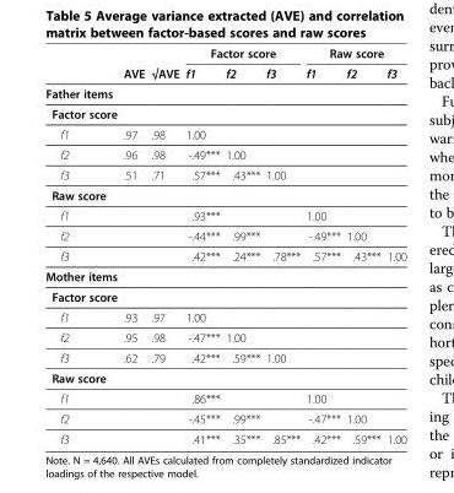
<table><thead><tr><td rowspan="2"></td><td rowspan="2">AVE</td><td rowspan="2">√AVE</td><td colspan="3">Factor score</td><td colspan="3">Raw score</td></tr><tr><td>f1</td><td>f2</td><td>f3</td><td>f1</td><td>f2</td><td>f3</td></tr></thead><tbody><tr><td colspan="9">Father items</td></tr><tr><td colspan="9">Factor score</td></tr><tr><td>f1</td><td>.97</td><td>.98</td><td>1.00</td><td></td><td></td><td></td><td></td><td></td></tr><tr><td>f2</td><td>.96</td><td>.98</td><td>-.49***</td><td>1.00</td><td></td><td></td><td></td><td></td></tr><tr><td>f3</td><td>.51</td><td>.71</td><td>.57***</td><td>.43***</td><td>1.00</td><td></td><td></td><td></td></tr><tr><td colspan="9">Raw score</td></tr><tr><td>f1</td><td></td><td></td><td>.93***</td><td></td><td></td><td>1.00</td><td></td><td></td></tr><tr><td>f2</td><td></td><td></td><td>-.44***</td><td>.99***</td><td></td><td>-.49***</td><td>1.00</td><td></td></tr><tr><td>f3</td><td></td><td></td><td>.42***</td><td>.24***</td><td>.78***</td><td>.57***</td><td>.43***</td><td>1.00</td></tr><tr><td colspan="9">Mother items</td></tr><tr><td colspan="9">Factor score</td></tr><tr><td>f1</td><td>.93</td><td>.97</td><td>1.00</td><td></td><td></td><td></td><td></td><td></td></tr><tr><td>f2</td><td>.95</td><td>.98</td><td>-.47***</td><td>1.00</td><td></td><td></td><td></td><td></td></tr><tr><td>f3</td><td>.62</td><td>.79</td><td>.42***</td><td>.59***</td><td>1.00</td><td></td><td></td><td></td></tr><tr><td colspan="9">Raw score</td></tr><tr><td>f1</td><td></td><td></td><td>.86***</td><td></td><td></td><td>1.00</td><td></td><td></td></tr><tr><td>f2</td><td></td><td></td><td>-.45***</td><td>.99***</td><td></td><td>-.47***</td><td>1.00</td><td></td></tr><tr><td>f3</td><td></td><td></td><td>.41***</td><td>.35***</td><td>.85***</td><td>.42***</td><td>.59***</td><td>1.00</td></tr></tbody></table>